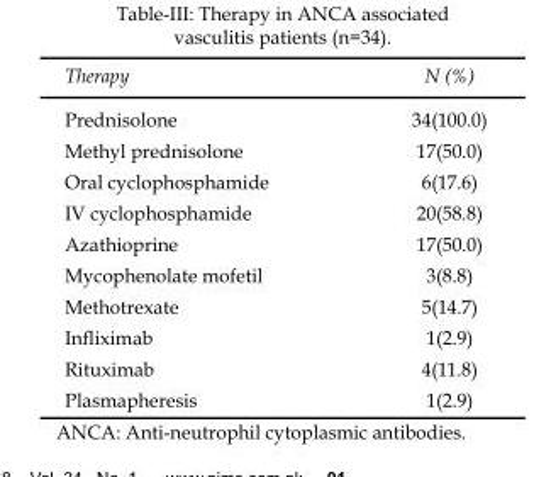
<table><thead><tr><td>Therapy</td><td>N (%)</td></tr></thead><tbody><tr><td>Prednisolone</td><td>34(100.0)</td></tr><tr><td>Methyl prednisolone</td><td>17(50.0)</td></tr><tr><td>Oral cyclophosphamide</td><td>6(17.6)</td></tr><tr><td>IV cyclophosphamide</td><td>20(58.8)</td></tr><tr><td>Azathioprine</td><td>17(50.0)</td></tr><tr><td>Mycophenolate mofetil</td><td>3(8.8)</td></tr><tr><td>Methotrexate</td><td>5(14.7)</td></tr><tr><td>Infliximab</td><td>1(2.9)</td></tr><tr><td>Rituximab</td><td>4(11.8)</td></tr><tr><td>Plasmapheresis</td><td>1(2.9)</td></tr></tbody></table>